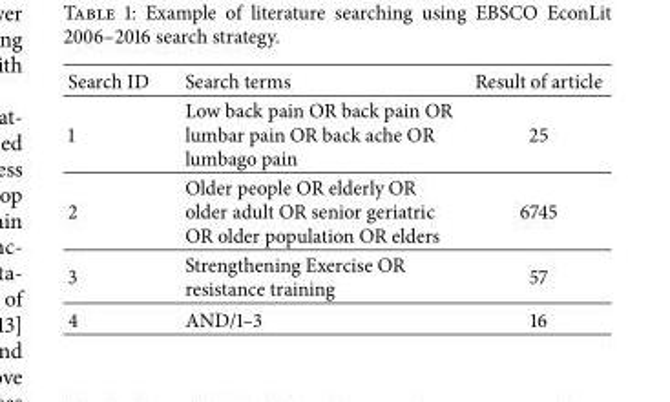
<table><thead><tr><td>Search ID</td><td>Search terms</td><td>Result of article</td></tr></thead><tbody><tr><td>1</td><td>Low back pain OR back pain OR lumbar pain OR back ache OR lumbago pain</td><td>25</td></tr><tr><td>2</td><td>Older people OR elderly OR older adult OR senior geriatric OR older population OR elders</td><td>6745</td></tr><tr><td>3</td><td>Strengthening Exercise OR resistance training</td><td>57</td></tr><tr><td>4</td><td>AND/1–3</td><td>16</td></tr></tbody></table>